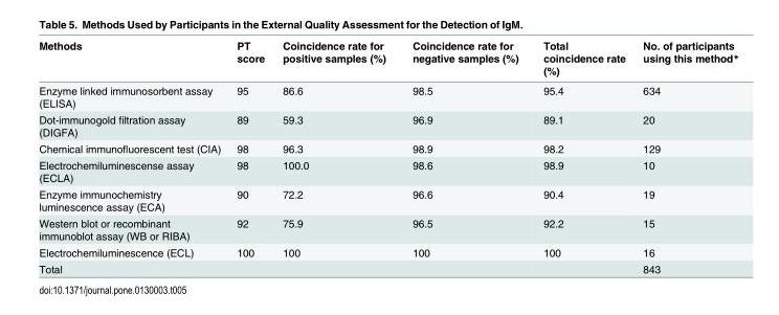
<table><thead><tr><td>Methods</td><td>PT score</td><td>Coincidence rate for positive samples (%)</td><td>Coincidence rate for negative samples (%)</td><td>Total coincidence rate (%)</td><td>No. of participants using this method*</td></tr></thead><tbody><tr><td>Enzyme linked immunosorbent assay (ELISA)</td><td>95</td><td>86.6</td><td>98.5</td><td>95.4</td><td>634</td></tr><tr><td>Dot-immunogold filtration assay (DIGFA)</td><td>89</td><td>59.3</td><td>96.9</td><td>89.1</td><td>20</td></tr><tr><td>Chemical immunofluorescent test (CIA)</td><td>98</td><td>96.3</td><td>98.9</td><td>98.2</td><td>129</td></tr><tr><td>Electrochemiluminescense assay (ECLA)</td><td>98</td><td>100.0</td><td>98.6</td><td>98.9</td><td>10</td></tr><tr><td>Enzyme immunochemistry luminescence assay (ECA)</td><td>90</td><td>72.2</td><td>96.6</td><td>90.4</td><td>19</td></tr><tr><td>Western blot or recombinant immunoblot assay (WB or RIBA)</td><td>92</td><td>75.9</td><td>96.5</td><td>92.2</td><td>15</td></tr><tr><td>Electrochemiluminescence (ECL)</td><td>100</td><td>100</td><td>100</td><td>100</td><td>16</td></tr><tr><td>Total</td><td></td><td></td><td></td><td></td><td>843</td></tr></tbody></table>